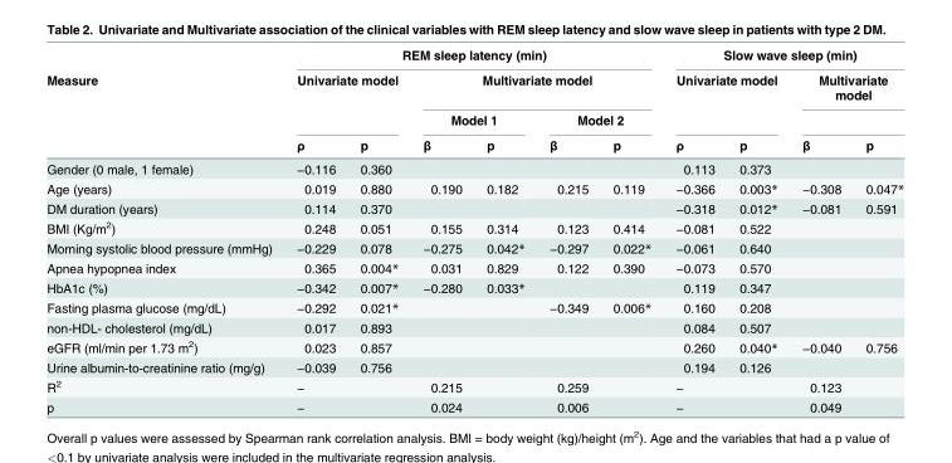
<table><thead><tr><td rowspan="4">Measure</td><td colspan="6">REM sleep latency (min)</td><td colspan="4">Slow wave sleep (min)</td></tr><tr><td rowspan="2" colspan="2">Univariate model</td><td colspan="4">Multivariate model</td><td rowspan="2" colspan="2">Univariate model</td><td colspan="2">Multivariate model</td></tr><tr><td colspan="2">Model 1</td><td colspan="2">Model 2</td><td rowspan="2">β</td><td rowspan="2">p</td></tr><tr><td>ρ</td><td>p</td><td>β</td><td>p</td><td>β</td><td>p</td><td>ρ</td><td>p</td></tr></thead><tbody><tr><td>Gender (0 male, 1 female)</td><td>−0.116</td><td>0.360</td><td></td><td></td><td></td><td></td><td>0.113</td><td>0.373</td><td></td><td></td></tr><tr><td>Age (years)</td><td>0.019</td><td>0.880</td><td>0.190</td><td>0.182</td><td>0.215</td><td>0.119</td><td>−0.366</td><td>0.003*</td><td>−0.308</td><td>0.047*</td></tr><tr><td>DM duration (years)</td><td>0.114</td><td>0.370</td><td></td><td></td><td></td><td></td><td>−0.318</td><td>0.012*</td><td>−0.081</td><td>0.591</td></tr><tr><td>BMI (Kg/m<sup>2</sup>)</td><td>0.248</td><td>0.051</td><td>0.155</td><td>0.314</td><td>0.123</td><td>0.414</td><td>−0.081</td><td>0.522</td><td></td><td></td></tr><tr><td>Morning systolic blood pressure (mmHg)</td><td>−0.229</td><td>0.078</td><td>−0.275</td><td>0.042*</td><td>−0.297</td><td>0.022*</td><td>−0.061</td><td>0.640</td><td></td><td></td></tr><tr><td>Apnea hypopnea index</td><td>0.365</td><td>0.004*</td><td>0.031</td><td>0.829</td><td>0.122</td><td>0.390</td><td>−0.073</td><td>0.570</td><td></td><td></td></tr><tr><td>HbA1c (%)</td><td>−0.342</td><td>0.007*</td><td>−0.280</td><td>0.033*</td><td></td><td></td><td>0.119</td><td>0.347</td><td></td><td></td></tr><tr><td>Fasting plasma glucose (mg/dL)</td><td>−0.292</td><td>0.021*</td><td></td><td></td><td>−0.349</td><td>0.006*</td><td>0.160</td><td>0.208</td><td></td><td></td></tr><tr><td>non-HDL- cholesterol (mg/dL)</td><td>0.017</td><td>0.893</td><td></td><td></td><td></td><td></td><td>0.084</td><td>0.507</td><td></td><td></td></tr><tr><td>eGFR (ml/min per 1.73 m<sup>2</sup>)</td><td>0.023</td><td>0.857</td><td></td><td></td><td></td><td></td><td>0.260</td><td>0.040*</td><td>−0.040</td><td>0.756</td></tr><tr><td>Urine albumin-to-creatinine ratio (mg/g)</td><td>−0.039</td><td>0.756</td><td></td><td></td><td></td><td></td><td>0.194</td><td>0.126</td><td></td><td></td></tr><tr><td>R<sup>2</sup></td><td colspan="2">−</td><td colspan="2">0.215</td><td colspan="2">0.259</td><td colspan="2">−</td><td colspan="2">0.123</td></tr><tr><td>p</td><td colspan="2">−</td><td colspan="2">0.024</td><td colspan="2">0.006</td><td colspan="2">−</td><td colspan="2">0.049</td></tr></tbody></table>